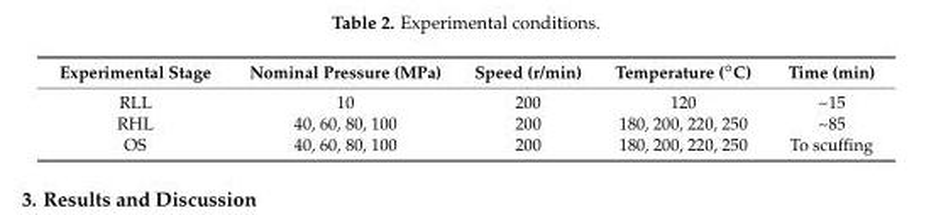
<table><thead><tr><td>Experimental Stage</td><td>Nominal Pressure (MPa)</td><td>Speed (r/min)</td><td>Temperature (◦C)</td><td>Time (min)</td></tr></thead><tbody><tr><td>RLL</td><td>10</td><td>200</td><td>120</td><td>~15</td></tr><tr><td>RHL</td><td>40, 60, 80, 100</td><td>200</td><td>180, 200, 220, 250</td><td>~85</td></tr><tr><td>OS</td><td>40, 60, 80, 100</td><td>200</td><td>180, 200, 220, 250</td><td>To scuffing</td></tr></tbody></table>